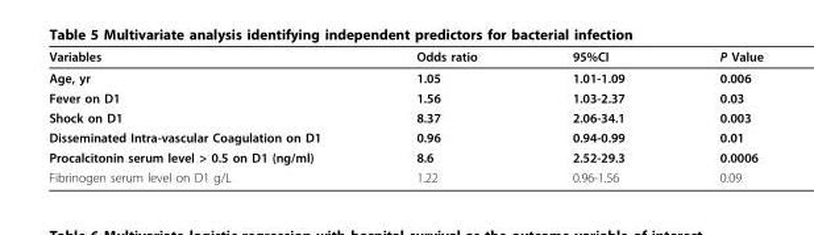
<table><thead><tr><td>Variables</td><td>Odds ratio</td><td>95%CI</td><td>P Value</td></tr></thead><tbody><tr><td>Age, yr</td><td>1.05</td><td>1.01-1.09</td><td>0.006</td></tr><tr><td>Fever on D1</td><td>1.56</td><td>1.03-2.37</td><td>0.03</td></tr><tr><td>Shock on D1</td><td>8.37</td><td>2.06-34.1</td><td>0.003</td></tr><tr><td>Disseminated Intra-vascular Coagulation on D1</td><td>0.96</td><td>0.94-0.99</td><td>0.01</td></tr><tr><td>Procalcitonin serum level &gt; 0.5 on D1 (ng/ml)</td><td>8.6</td><td>2.52-29.3</td><td>0.0006</td></tr><tr><td>Fibrinogen serum level on D1 g/L</td><td>1.22</td><td>0.96-1.56</td><td>0.09</td></tr></tbody></table>